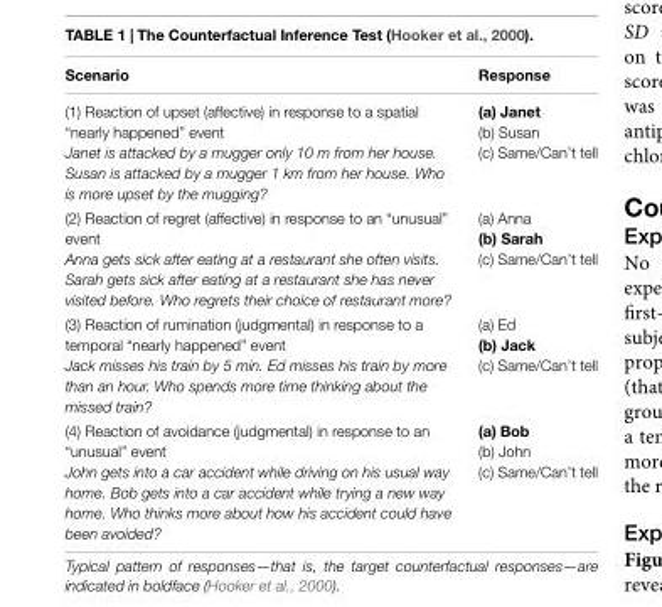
<table><thead><tr><td>Scenario</td><td>Response</td></tr></thead><tbody><tr><td>(1) Reaction of upset (affective) in response to a spatial “nearly happened” event Janet is attacked by a mugger only 10 m from her house. Susan is attacked by a mugger 1 km from her house. Who is more upset by the mugging?</td><td>(a) Janet (b) Susan (c) Same/Can’t tell</td></tr><tr><td>(2) Reaction of regret (affective) in response to an “unusual” event Anna gets sick after eating at a restaurant she often visits. Sarah gets sick after eating at a restaurant she has never visited before. Who regrets their choice of restaurant more?</td><td>(a) Anna (b) Sarah (c) Same/Can’t tell</td></tr><tr><td>(3) Reaction of rumination (judgmental) in response to a temporal “nearly happened” event Jack misses his train by 5 min. Ed misses his train by more than an hour. Who spends more time thinking about the missed train?</td><td>(a) Ed (b) Jack (c) Same/Can’t tell</td></tr><tr><td>(4) Reaction of avoidance (judgmental) in response to an “unusual” event John gets into a car accident while driving on his usual way home. Bob gets into a car accident while trying a new way home. Who thinks more about how his accident could have been avoided?</td><td>(a) Bob (b) John (c) Same/Can’t tell</td></tr></tbody></table>